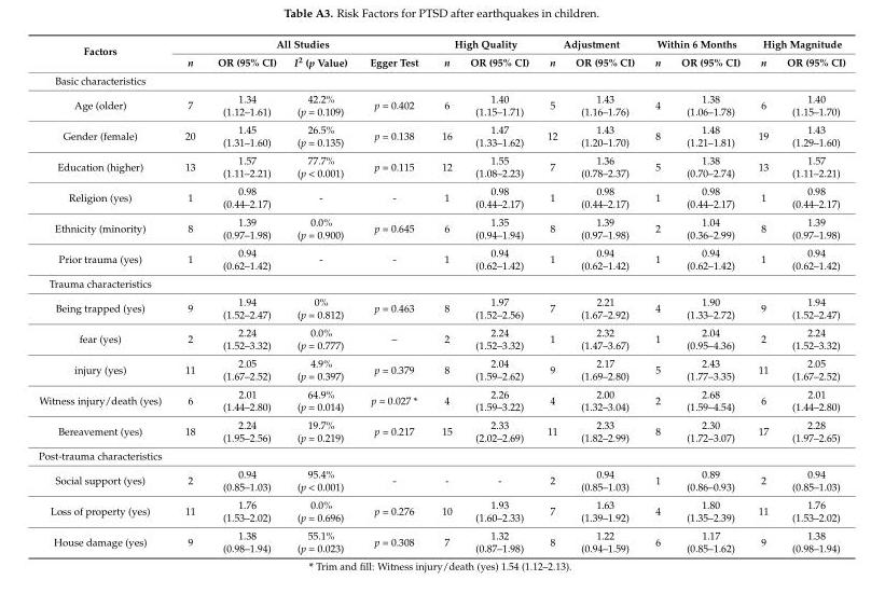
<table><thead><tr><td rowspan="2">Factors</td><td colspan="4">All Studies</td><td colspan="2">High Quality</td><td colspan="2">Adjustment</td><td colspan="2">Within 6 Months</td><td colspan="2">High Magnitude</td></tr><tr><td>n</td><td>OR (95% CI)</td><td>I<sup>2</sup> (p Value)</td><td>Egger Test</td><td>n</td><td>OR (95% CI)</td><td>n</td><td>OR (95% CI)</td><td>n</td><td>OR (95% CI)</td><td>n</td><td>OR (95% CI)</td></tr></thead><tbody><tr><td colspan="13">Basic characteristics</td></tr><tr><td>Age (older)</td><td>7</td><td>1.34 (1.12–1.61)</td><td>42.2% (p = 0.109)</td><td>p = 0.402</td><td>6</td><td>1.40 (1.15–1.71)</td><td>5</td><td>1.43 (1.16–1.76)</td><td>4</td><td>1.38 (1.06–1.78)</td><td>6</td><td>1.40 (1.15–1.70)</td></tr><tr><td>Gender (female)</td><td>20</td><td>1.45 (1.31–1.60)</td><td>26.5% (p = 0.135)</td><td>p = 0.138</td><td>16</td><td>1.47 (1.33–1.62)</td><td>12</td><td>1.43 (1.20–1.70)</td><td>8</td><td>1.48 (1.21–1.81)</td><td>19</td><td>1.43 (1.29–1.60)</td></tr><tr><td>Education (higher)</td><td>13</td><td>1.57 (1.11–2.21)</td><td>77.7% (p &lt; 0.001)</td><td>p = 0.115</td><td>12</td><td>1.55 (1.08–2.23)</td><td>7</td><td>1.36 (0.78–2.37)</td><td>5</td><td>1.38 (0.70–2.74)</td><td>13</td><td>1.57 (1.11–2.21)</td></tr><tr><td>Religion (yes)</td><td>1</td><td>0.98 (0.44–2.17)</td><td>-</td><td>-</td><td>1</td><td>0.98 (0.44–2.17)</td><td>1</td><td>0.98 (0.44–2.17)</td><td>1</td><td>0.98 (0.44–2.17)</td><td>1</td><td>0.98 (0.44–2.17)</td></tr><tr><td>Ethnicity (minority)</td><td>8</td><td>1.39 (0.97–1.98)</td><td>0.0% (p = 0.900)</td><td>p = 0.645</td><td>6</td><td>1.35 (0.94–1.94)</td><td>8</td><td>1.39 (0.97–1.98)</td><td>2</td><td>1.04 (0.36–2.99)</td><td>8</td><td>1.39 (0.97–1.98)</td></tr><tr><td>Prior trauma (yes)</td><td>1</td><td>0.94 (0.62–1.42)</td><td>-</td><td>-</td><td>1</td><td>0.94 (0.62–1.42)</td><td>1</td><td>0.94 (0.62–1.42)</td><td>1</td><td>0.94 (0.62–1.42)</td><td>1</td><td>0.94 (0.62–1.42)</td></tr><tr><td colspan="13">Trauma characteristics</td></tr><tr><td>Being trapped (yes)</td><td>9</td><td>1.94 (1.52–2.47)</td><td>0% (p = 0.812)</td><td>p = 0.463</td><td>8</td><td>1.97 (1.52–2.56)</td><td>7</td><td>2.21 (1.67–2.92)</td><td>4</td><td>1.90 (1.33–2.72)</td><td>9</td><td>1.94 (1.52–2.47)</td></tr><tr><td>fear (yes)</td><td>2</td><td>2.24 (1.52–3.32)</td><td>0.0% (p = 0.777)</td><td>–</td><td>2</td><td>2.24 (1.52–3.32)</td><td>1</td><td>2.32 (1.47–3.67)</td><td>1</td><td>2.04 (0.95–4.36)</td><td>2</td><td>2.24 (1.52–3.32)</td></tr><tr><td>injury (yes)</td><td>11</td><td>2.05 (1.67–2.52)</td><td>4.9% (p = 0.397)</td><td>p = 0.379</td><td>8</td><td>2.04 (1.59–2.62)</td><td>9</td><td>2.17 (1.69–2.80)</td><td>5</td><td>2.43 (1.77–3.35)</td><td>11</td><td>2.05 (1.67–2.52)</td></tr><tr><td>Witness injury/death (yes)</td><td>6</td><td>2.01 (1.44–2.80)</td><td>64.9% (p = 0.014)</td><td>p = 0.027 *</td><td>4</td><td>2.26 (1.59–3.22)</td><td>4</td><td>2.00 (1.32–3.04)</td><td>2</td><td>2.68 (1.59–4.54)</td><td>6</td><td>2.01 (1.44–2.80)</td></tr><tr><td>Bereavement (yes)</td><td>18</td><td>2.24 (1.95–2.56)</td><td>19.7% (p = 0.219)</td><td>p = 0.217</td><td>15</td><td>2.33 (2.02–2.69)</td><td>11</td><td>2.33 (1.82–2.99)</td><td>8</td><td>2.30 (1.72–3.07)</td><td>17</td><td>2.28 (1.97–2.65)</td></tr><tr><td colspan="13">Post-trauma characteristics</td></tr><tr><td>Social support (yes)</td><td>2</td><td>0.94 (0.85–1.03)</td><td>95.4% (p &lt; 0.001)</td><td>-</td><td>-</td><td>-</td><td>2</td><td>0.94 (0.85–1.03)</td><td>1</td><td>0.89 (0.86–0.93)</td><td>2</td><td>0.94 (0.85–1.03)</td></tr><tr><td>Loss of property (yes)</td><td>11</td><td>1.76 (1.53–2.02)</td><td>0.0% (p = 0.696)</td><td>p = 0.276</td><td>10</td><td>1.93 (1.60–2.33)</td><td>7</td><td>1.63 (1.39–1.92)</td><td>4</td><td>1.80 (1.35–2.39)</td><td>11</td><td>1.76 (1.53–2.02)</td></tr><tr><td>House damage (yes)</td><td>9</td><td>1.38 (0.98–1.94)</td><td>55.1% (p = 0.023)</td><td>p = 0.308</td><td>7</td><td>1.32 (0.87–1.98)</td><td>8</td><td>1.22 (0.94–1.59)</td><td>6</td><td>1.17 (0.85–1.62)</td><td>9</td><td>1.38 (0.98–1.94)</td></tr></tbody></table>